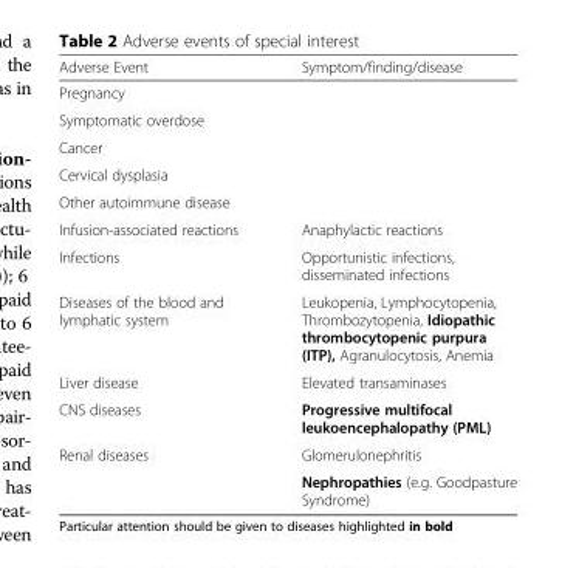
<table><thead><tr><td>Adverse Event</td><td>Symptom/finding/disease</td></tr></thead><tbody><tr><td colspan="2">Pregnancy</td></tr><tr><td colspan="2">Symptomatic overdose</td></tr><tr><td colspan="2">Cancer</td></tr><tr><td colspan="2">Cervical dysplasia</td></tr><tr><td colspan="2">Other autoimmune disease</td></tr><tr><td>Infusion-associated reactions</td><td>Anaphylactic reactions</td></tr><tr><td>Infections</td><td>Opportunistic infections, disseminated infections</td></tr><tr><td>Diseases of the blood and lymphatic system</td><td>Leukopenia, Lymphocytopenia, Thrombozytopenia, Idiopathic thrombocytopenic purpura (ITP), Agranulocytosis, Anemia</td></tr><tr><td>Liver disease</td><td>Elevated transaminases</td></tr><tr><td>CNS diseases</td><td>Progressive multifocal leukoencephalopathy (PML)</td></tr><tr><td rowspan="2">Renal diseases</td><td>Glomerulonephritis</td></tr><tr><td>Nephropathies (e.g. Goodpasture Syndrome)</td></tr></tbody></table>